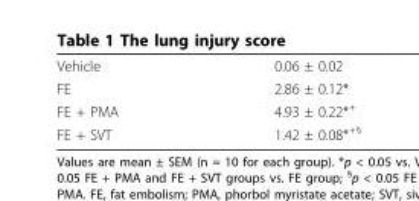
<table><tbody><tr><td>Vehicle</td><td>0.06 ± 0.02</td></tr><tr><td>FE</td><td>2.86 ± 0.12*</td></tr><tr><td>FE + PMA</td><td>4.93 ± 0.22*<sup>+</sup></td></tr><tr><td>FE + SVT</td><td>1.42 ± 0.08*<sup>+§</sup></td></tr></tbody></table>